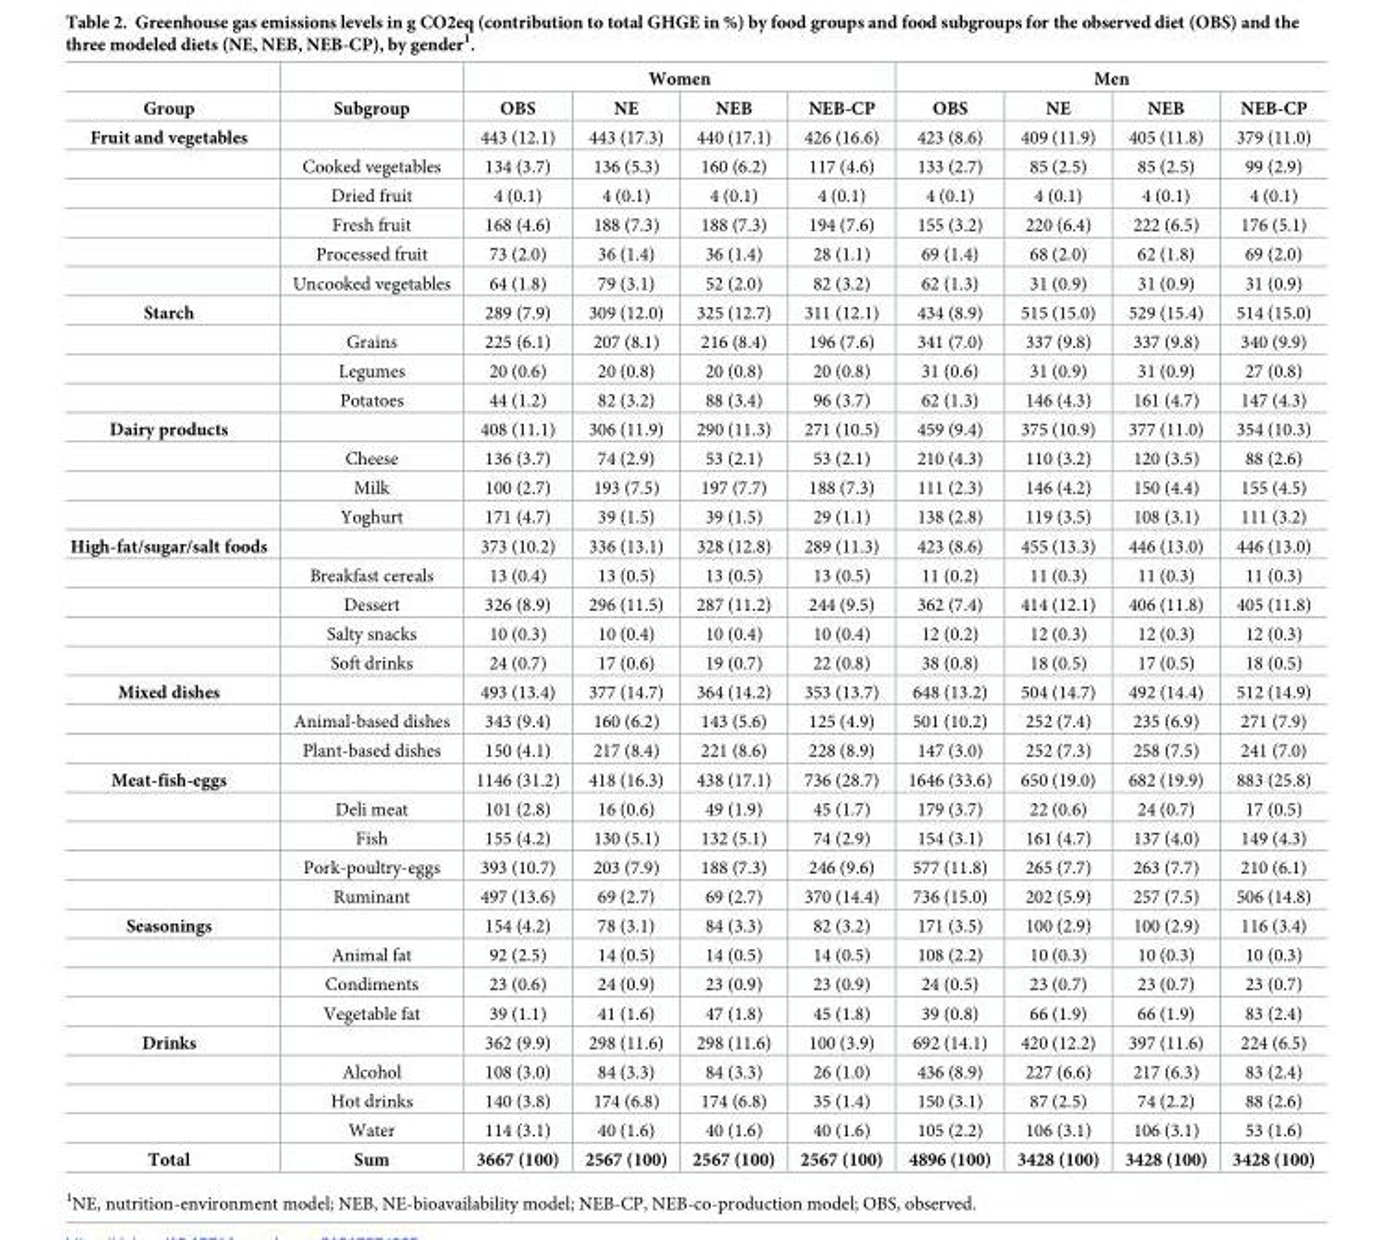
<table><thead><tr><td rowspan="2">Group</td><td rowspan="2">Subgroup</td><td colspan="4">Women</td><td colspan="4">Men</td></tr><tr><td>OBS</td><td>NE</td><td>NEB</td><td>NEB-CP</td><td>OBS</td><td>NE</td><td>NEB</td><td>NEB-CP</td></tr></thead><tbody><tr><td rowspan="6">Fruit and vegetables</td><td></td><td>443 (12.1)</td><td>443 (17.3)</td><td>440 (17.1)</td><td>426 (16.6)</td><td>423 (8.6)</td><td>409 (11.9)</td><td>405 (11.8)</td><td>379 (11.0)</td></tr><tr><td>Cooked vegetables</td><td>134 (3.7)</td><td>136 (5.3)</td><td>160 (6.2)</td><td>117 (4.6)</td><td>133 (2.7)</td><td>85 (2.5)</td><td>85 (2.5)</td><td>99 (2.9)</td></tr><tr><td>Dried fruit</td><td>4 (0.1)</td><td>4 (0.1)</td><td>4 (0.1)</td><td>4 (0.1)</td><td>4 (0.1)</td><td>4 (0.1)</td><td>4 (0.1)</td><td>4 (0.1)</td></tr><tr><td>Fresh fruit</td><td>168 (4.6)</td><td>188 (7.3)</td><td>188 (7.3)</td><td>194 (7.6)</td><td>155 (3.2)</td><td>220 (6.4)</td><td>222 (6.5)</td><td>176 (5.1)</td></tr><tr><td>Processed fruit</td><td>73 (2.0)</td><td>36 (1.4)</td><td>36 (1.4)</td><td>28 (1.1)</td><td>69 (1.4)</td><td>68 (2.0)</td><td>62 (1.8)</td><td>69 (2.0)</td></tr><tr><td>Uncooked vegetables</td><td>64 (1.8)</td><td>79 (3.1)</td><td>52 (2.0)</td><td>82 (3.2)</td><td>62 (1.3)</td><td>31 (0.9)</td><td>31 (0.9)</td><td>31 (0.9)</td></tr><tr><td rowspan="4">Starch</td><td></td><td>289 (7.9)</td><td>309 (12.0)</td><td>325 (12.7)</td><td>311 (12.1)</td><td>434 (8.9)</td><td>515 (15.0)</td><td>529 (15.4)</td><td>514 (15.0)</td></tr><tr><td>Grains</td><td>225 (6.1)</td><td>207 (8.1)</td><td>216 (8.4)</td><td>196 (7.6)</td><td>341 (7.0)</td><td>337 (9.8)</td><td>337 (9.8)</td><td>340 (9.9)</td></tr><tr><td>Legumes</td><td>20 (0.6)</td><td>20 (0.8)</td><td>20 (0.8)</td><td>20 (0.8)</td><td>31 (0.6)</td><td>31 (0.9)</td><td>31 (0.9)</td><td>27 (0.8)</td></tr><tr><td>Potatoes</td><td>44 (1.2)</td><td>82 (3.2)</td><td>88 (3.4)</td><td>96 (3.7)</td><td>62 (1.3)</td><td>146 (4.3)</td><td>161 (4.7)</td><td>147 (4.3)</td></tr><tr><td rowspan="4">Dairy products</td><td></td><td>408 (11.1)</td><td>306 (11.9)</td><td>290 (11.3)</td><td>271 (10.5)</td><td>459 (9.4)</td><td>375 (10.9)</td><td>377 (11.0)</td><td>354 (10.3)</td></tr><tr><td>Cheese</td><td>136 (3.7)</td><td>74 (2.9)</td><td>53 (2.1)</td><td>53 (2.1)</td><td>210 (4.3)</td><td>110 (3.2)</td><td>120 (3.5)</td><td>88 (2.6)</td></tr><tr><td>Milk</td><td>100 (2.7)</td><td>193 (7.5)</td><td>197 (7.7)</td><td>188 (7.3)</td><td>111 (2.3)</td><td>146 (4.2)</td><td>150 (4.4)</td><td>155 (4.5)</td></tr><tr><td>Yoghurt</td><td>171 (4.7)</td><td>39 (1.5)</td><td>39 (1.5)</td><td>29 (1.1)</td><td>138 (2.8)</td><td>119 (3.5)</td><td>108 (3.1)</td><td>111 (3.2)</td></tr><tr><td rowspan="5">High-fat/sugar/salt foods</td><td></td><td>373 (10.2)</td><td>336 (13.1)</td><td>328 (12.8)</td><td>289 (11.3)</td><td>423 (8.6)</td><td>455 (13.3)</td><td>446 (13.0)</td><td>446 (13.0)</td></tr><tr><td>Breakfast cereals</td><td>13 (0.4)</td><td>13 (0.5)</td><td>13 (0.5)</td><td>13 (0.5)</td><td>11 (0.2)</td><td>11 (0.3)</td><td>11 (0.3)</td><td>11 (0.3)</td></tr><tr><td>Dessert</td><td>326 (8.9)</td><td>296 (11.5)</td><td>287 (11.2)</td><td>244 (9.5)</td><td>362 (7.4)</td><td>414 (12.1)</td><td>406 (11.8)</td><td>405 (11.8)</td></tr><tr><td>Salty snacks</td><td>10 (0.3)</td><td>10 (0.4)</td><td>10 (0.4)</td><td>10 (0.4)</td><td>12 (0.2)</td><td>12 (0.3)</td><td>12 (0.3)</td><td>12 (0.3)</td></tr><tr><td>Soft drinks</td><td>24 (0.7)</td><td>17 (0.6)</td><td>19 (0.7)</td><td>22 (0.8)</td><td>38 (0.8)</td><td>18 (0.5)</td><td>17 (0.5)</td><td>18 (0.5)</td></tr><tr><td rowspan="3">Mixed dishes</td><td></td><td>493 (13.4)</td><td>377 (14.7)</td><td>364 (14.2)</td><td>353 (13.7)</td><td>648 (13.2)</td><td>504 (14.7)</td><td>492 (14.4)</td><td>512 (14.9)</td></tr><tr><td>Animal-based dishes</td><td>343 (9.4)</td><td>160 (6.2)</td><td>143 (5.6)</td><td>125 (4.9)</td><td>501 (10.2)</td><td>252 (7.4)</td><td>235 (6.9)</td><td>271 (7.9)</td></tr><tr><td>Plant-based dishes</td><td>150 (4.1)</td><td>217 (8.4)</td><td>221 (8.6)</td><td>228 (8.9)</td><td>147 (3.0)</td><td>252 (7.3)</td><td>258 (7.5)</td><td>241 (7.0)</td></tr><tr><td rowspan="5">Meat-fish-eggs</td><td></td><td>1146 (31.2)</td><td>418 (16.3)</td><td>438 (17.1)</td><td>736 (28.7)</td><td>1646 (33.6)</td><td>650 (19.0)</td><td>682 (19.9)</td><td>883 (25.8)</td></tr><tr><td>Deli meat</td><td>101 (2.8)</td><td>16 (0.6)</td><td>49 (1.9)</td><td>45 (1.7)</td><td>179 (3.7)</td><td>22 (0.6)</td><td>24 (0.7)</td><td>17 (0.5)</td></tr><tr><td>Fish</td><td>155 (4.2)</td><td>130 (5.1)</td><td>132 (5.1)</td><td>74 (2.9)</td><td>154 (3.1)</td><td>161 (4.7)</td><td>137 (4.0)</td><td>149 (4.3)</td></tr><tr><td>Pork-poultry-eggs</td><td>393 (10.7)</td><td>203 (7.9)</td><td>188 (7.3)</td><td>246 (9.6)</td><td>577 (11.8)</td><td>265 (7.7)</td><td>263 (7.7)</td><td>210 (6.1)</td></tr><tr><td>Ruminant</td><td>497 (13.6)</td><td>69 (2.7)</td><td>69 (2.7)</td><td>370 (14.4)</td><td>736 (15.0)</td><td>202 (5.9)</td><td>257 (7.5)</td><td>506 (14.8)</td></tr><tr><td rowspan="4">Seasonings</td><td></td><td>154 (4.2)</td><td>78 (3.1)</td><td>84 (3.3)</td><td>82 (3.2)</td><td>171 (3.5)</td><td>100 (2.9)</td><td>100 (2.9)</td><td>116 (3.4)</td></tr><tr><td>Animal fat</td><td>92 (2.5)</td><td>14 (0.5)</td><td>14 (0.5)</td><td>14 (0.5)</td><td>108 (2.2)</td><td>10 (0.3)</td><td>10 (0.3)</td><td>10 (0.3)</td></tr><tr><td>Condiments</td><td>23 (0.6)</td><td>24 (0.9)</td><td>23 (0.9)</td><td>23 (0.9)</td><td>24 (0.5)</td><td>23 (0.7)</td><td>23 (0.7)</td><td>23 (0.7)</td></tr><tr><td>Vegetable fat</td><td>39 (1.1)</td><td>41 (1.6)</td><td>47 (1.8)</td><td>45 (1.8)</td><td>39 (0.8)</td><td>66 (1.9)</td><td>66 (1.9)</td><td>83 (2.4)</td></tr><tr><td rowspan="4">Drinks</td><td></td><td>362 (9.9)</td><td>298 (11.6)</td><td>298 (11.6)</td><td>100 (3.9)</td><td>692 (14.1)</td><td>420 (12.2)</td><td>397 (11.6)</td><td>224 (6.5)</td></tr><tr><td>Alcohol</td><td>108 (3.0)</td><td>84 (3.3)</td><td>84 (3.3)</td><td>26 (1.0)</td><td>436 (8.9)</td><td>227 (6.6)</td><td>217 (6.3)</td><td>83 (2.4)</td></tr><tr><td>Hot drinks</td><td>140 (3.8)</td><td>174 (6.8)</td><td>174 (6.8)</td><td>35 (1.4)</td><td>150 (3.1)</td><td>87 (2.5)</td><td>74 (2.2)</td><td>88 (2.6)</td></tr><tr><td>Water</td><td>114 (3.1)</td><td>40 (1.6)</td><td>40 (1.6)</td><td>40 (1.6)</td><td>105 (2.2)</td><td>106 (3.1)</td><td>106 (3.1)</td><td>53 (1.6)</td></tr><tr><td>Total</td><td>Sum</td><td>3667 (100)</td><td>2567 (100)</td><td>2567 (100)</td><td>2567 (100)</td><td>4896 (100)</td><td>3428 (100)</td><td>3428 (100)</td><td>3428 (100)</td></tr></tbody></table>